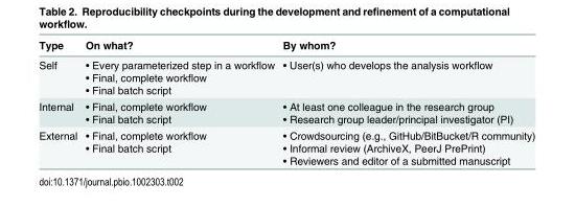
<table><thead><tr><td>Type</td><td>On what?</td><td>By whom?</td></tr></thead><tbody><tr><td>Self</td><td>• Every parameterized step in a workflow • Final, complete workflow • Final batch script</td><td>• User(s) who develops the analysis workflow</td></tr><tr><td>Internal</td><td>• Final, complete workflow • Final batch script</td><td>• At least one colleague in the research group • Research group leader/principal investigator (PI)</td></tr><tr><td>External</td><td>• Final, complete workflow • Final batch script</td><td>• Crowdsourcing (e.g., GitHub/BitBucket/R community) • Informal review (ArchiveX, PeerJ PrePrint) • Reviewers and editor of a submitted manuscript</td></tr></tbody></table>